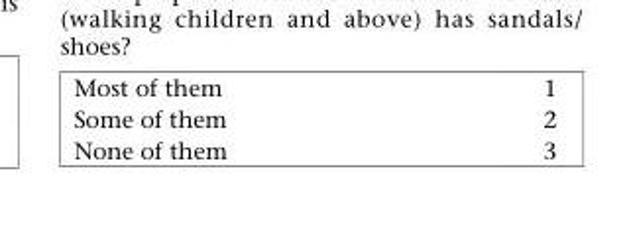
<table><tbody><tr><td>Most of them</td><td>1</td></tr><tr><td>Some of them</td><td>2</td></tr><tr><td>None of them</td><td>3</td></tr></tbody></table>